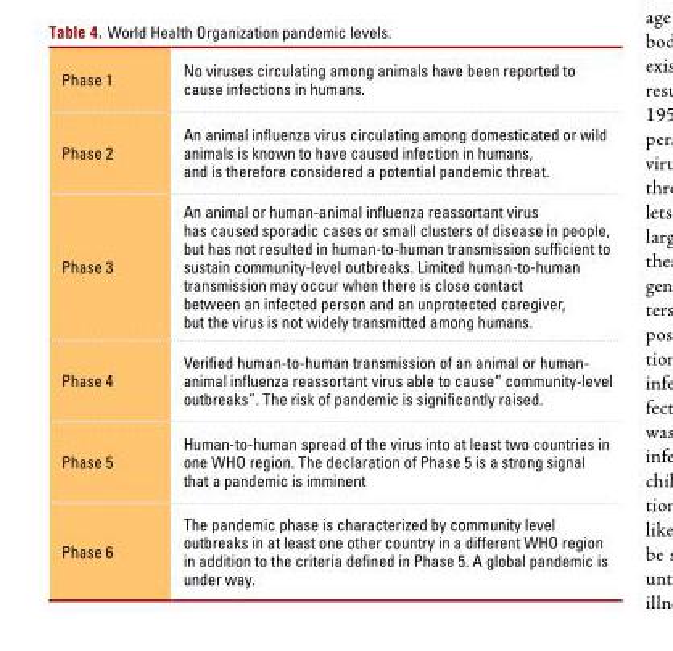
<table><tbody><tr><td>Phase 1</td><td>No viruses circulating among animals have been reported to cause infections in humans.</td></tr><tr><td>Phase 2</td><td>An animal influenza virus circulating among domesticated or wild animals is known to have caused infection in humans, and is therefore considered a potential pandemic threat.</td></tr><tr><td>Phase 3</td><td>An animal or human-animal influenza reassortant virus has caused sporadic cases or small clusters of disease in people, but has not resulted in human-to-human transmission sufficient to sustain community-level outbreaks. Limited human-to-human transmission may occur when there is close contact between an infected person and an unprotected caregiver, but the virus is not widely transmitted among humans.</td></tr><tr><td>Phase 4</td><td>Verified human-to-human transmission of an animal or human- animal influenza reassortant virus able to cause“ community-level outbreaks”. The risk of pandemic is significantly raised.</td></tr><tr><td>Phase 5</td><td>Human-to-human spread of the virus into at least two countries in one WHO region. The declaration of Phase 5 is a strong signal that a pandemic is imminent</td></tr><tr><td>Phase 6</td><td>The pandemic phase is characterized by community level outbreaks in at least one other country in a different WHO region in addition to the criteria defined in Phase 5. A global pandemic is under way.</td></tr></tbody></table>